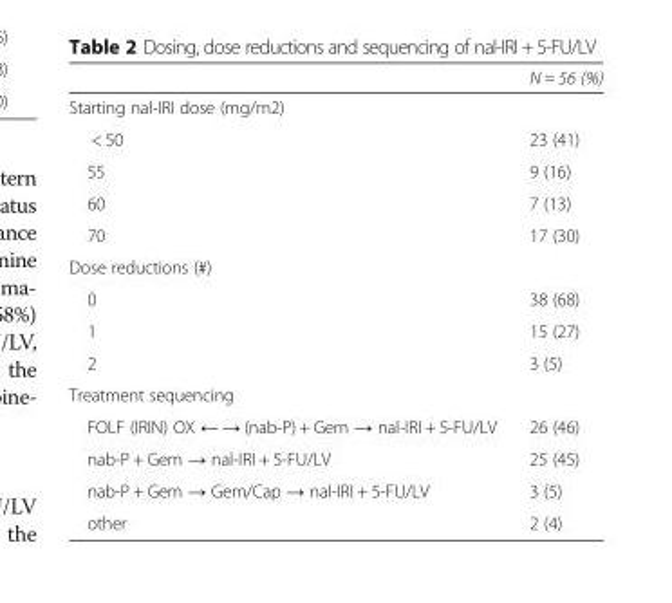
<table><thead><tr><td></td><td>N = 56 (%)</td></tr></thead><tbody><tr><td colspan="2">Starting nal-IRI dose (mg/m2)</td></tr><tr><td>&lt; 50</td><td>23 (41)</td></tr><tr><td>55</td><td>9 (16)</td></tr><tr><td>60</td><td>7 (13)</td></tr><tr><td>70</td><td>17 (30)</td></tr><tr><td colspan="2">Dose reductions (#)</td></tr><tr><td>0</td><td>38 (68)</td></tr><tr><td>1</td><td>15 (27)</td></tr><tr><td>2</td><td>3 (5)</td></tr><tr><td colspan="2">Treatment sequencing</td></tr><tr><td>FOLF (IRIN) OX ← → (nab-P) + Gem → nal-IRI + 5-FU/LV</td><td>26 (46)</td></tr><tr><td>nab-P + Gem → nal-IRI + 5-FU/LV</td><td>25 (45)</td></tr><tr><td>nab-P + Gem → Gem/Cap → nal-IRI + 5-FU/LV</td><td>3 (5)</td></tr><tr><td>other</td><td>2 (4)</td></tr></tbody></table>